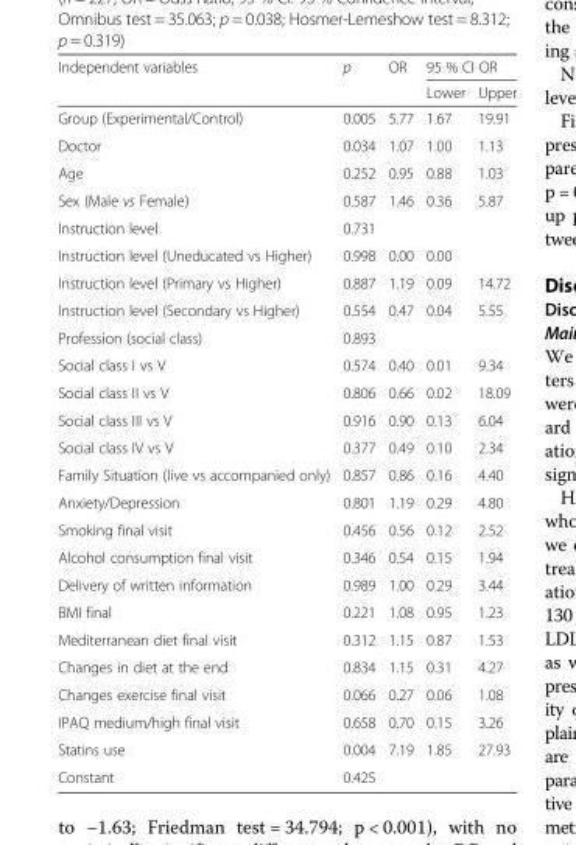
<table><thead><tr><td rowspan="2">Independent variables</td><td rowspan="2">p</td><td rowspan="2">OR</td><td colspan="2">95 % CI OR</td></tr><tr><td>Lower</td><td>Upper</td></tr></thead><tbody><tr><td>Group (Experimental/Control)</td><td>0.005</td><td>5.77</td><td>1.67</td><td>19.91</td></tr><tr><td>Doctor</td><td>0.034</td><td>1.07</td><td>1.00</td><td>1.13</td></tr><tr><td>Age</td><td>0.252</td><td>0.95</td><td>0.88</td><td>1.03</td></tr><tr><td>Sex (Male vs Female)</td><td>0.587</td><td>1.46</td><td>0.36</td><td>5.87</td></tr><tr><td>Instruction level</td><td>0.731</td><td colspan="3"></td></tr><tr><td>Instruction level (Uneducated vs Higher)</td><td>0.998</td><td>0.00</td><td>0.00</td><td></td></tr><tr><td>Instruction level (Primary vs Higher)</td><td>0.887</td><td>1.19</td><td>0.09</td><td>14.72</td></tr><tr><td>Instruction level (Secondary vs Higher)</td><td>0.554</td><td>0.47</td><td>0.04</td><td>5.55</td></tr><tr><td>Profession (social class)</td><td>0.893</td><td colspan="3"></td></tr><tr><td>Social class I vs V</td><td>0.574</td><td>0.40</td><td>0.01</td><td>9.34</td></tr><tr><td>Social class II vs V</td><td>0.806</td><td>0.66</td><td>0.02</td><td>18.09</td></tr><tr><td>Social class III vs V</td><td>0.916</td><td>0.90</td><td>0.13</td><td>6.04</td></tr><tr><td>Social class IV vs V</td><td>0.377</td><td>0.49</td><td>0.10</td><td>2.34</td></tr><tr><td>Family Situation (live vs accompanied only)</td><td>0.857</td><td>0.86</td><td>0.16</td><td>4.40</td></tr><tr><td>Anxiety/Depression</td><td>0.801</td><td>1.19</td><td>0.29</td><td>4.80</td></tr><tr><td>Smoking final visit</td><td>0.456</td><td>0.56</td><td>0.12</td><td>2.52</td></tr><tr><td>Alcohol consumption final visit</td><td>0.346</td><td>0.54</td><td>0.15</td><td>1.94</td></tr><tr><td>Delivery of written information</td><td>0.989</td><td>1.00</td><td>0.29</td><td>3.44</td></tr><tr><td>BMI final</td><td>0.221</td><td>1.08</td><td>0.95</td><td>1.23</td></tr><tr><td>Mediterranean diet final visit</td><td>0.312</td><td>1.15</td><td>0.87</td><td>1.53</td></tr><tr><td>Changes in diet at the end</td><td>0.834</td><td>1.15</td><td>0.31</td><td>4.27</td></tr><tr><td>Changes exercise final visit</td><td>0.066</td><td>0.27</td><td>0.06</td><td>1.08</td></tr><tr><td>IPAQ medium/high final visit</td><td>0.658</td><td>0.70</td><td>0.15</td><td>3.26</td></tr><tr><td>Statins use</td><td>0.004</td><td>7.19</td><td>1.85</td><td>27.93</td></tr><tr><td>Constant</td><td>0.425</td><td colspan="3"></td></tr></tbody></table>